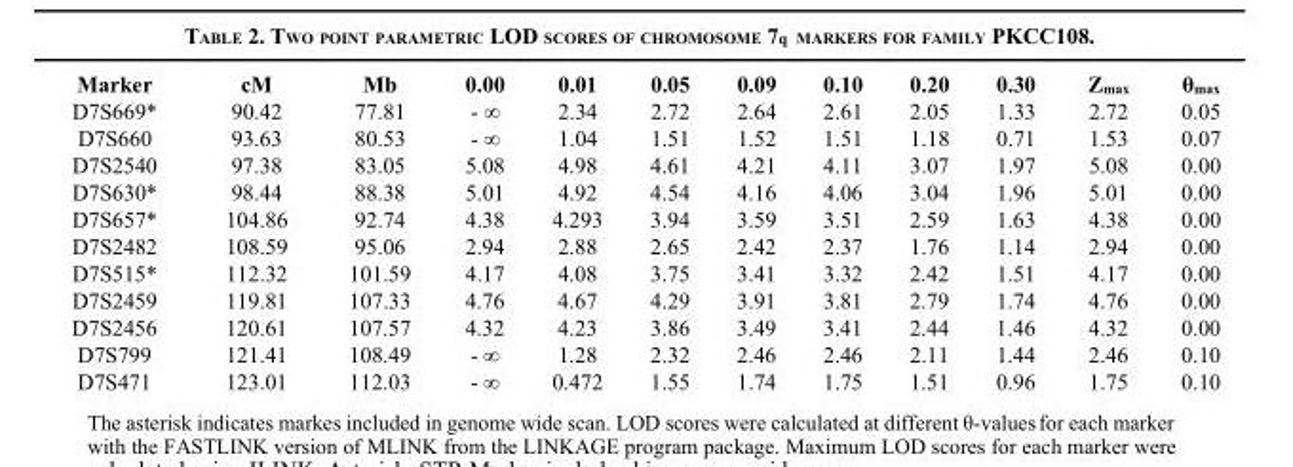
<table><thead><tr><td>Marker</td><td>cM</td><td>Mb</td><td>0.00</td><td>0.01</td><td>0.05</td><td>0.09</td><td>0.10</td><td>0.20</td><td>0.30</td><td>Z<sub>max</sub></td><td>θ<sub>max</sub></td></tr></thead><tbody><tr><td>D7S669*</td><td>90.42</td><td>77.81</td><td>- ∞</td><td>2.34</td><td>2.72</td><td>2.64</td><td>2.61</td><td>2.05</td><td>1.33</td><td>2.72</td><td>0.05</td></tr><tr><td>D7S660</td><td>93.63</td><td>80.53</td><td>- ∞</td><td>1.04</td><td>1.51</td><td>1.52</td><td>1.51</td><td>1.18</td><td>0.71</td><td>1.53</td><td>0.07</td></tr><tr><td>D7S2540</td><td>97.38</td><td>83.05</td><td>5.08</td><td>4.98</td><td>4.61</td><td>4.21</td><td>4.11</td><td>3.07</td><td>1.97</td><td>5.08</td><td>0.00</td></tr><tr><td>D7S630*</td><td>98.44</td><td>88.38</td><td>5.01</td><td>4.92</td><td>4.54</td><td>4.16</td><td>4.06</td><td>3.04</td><td>1.96</td><td>5.01</td><td>0.00</td></tr><tr><td>D7S657*</td><td>104.86</td><td>92.74</td><td>4.38</td><td>4.293</td><td>3.94</td><td>3.59</td><td>3.51</td><td>2.59</td><td>1.63</td><td>4.38</td><td>0.00</td></tr><tr><td>D7S2482</td><td>108.59</td><td>95.06</td><td>2.94</td><td>2.88</td><td>2.65</td><td>2.42</td><td>2.37</td><td>1.76</td><td>1.14</td><td>2.94</td><td>0.00</td></tr><tr><td>D7S515*</td><td>112.32</td><td>101.59</td><td>4.17</td><td>4.08</td><td>3.75</td><td>3.41</td><td>3.32</td><td>2.42</td><td>1.51</td><td>4.17</td><td>0.00</td></tr><tr><td>D7S2459</td><td>119.81</td><td>107.33</td><td>4.76</td><td>4.67</td><td>4.29</td><td>3.91</td><td>3.81</td><td>2.79</td><td>1.74</td><td>4.76</td><td>0.00</td></tr><tr><td>D7S2456</td><td>120.61</td><td>107.57</td><td>4.32</td><td>4.23</td><td>3.86</td><td>3.49</td><td>3.41</td><td>2.44</td><td>1.46</td><td>4.32</td><td>0.00</td></tr><tr><td>D7S799</td><td>121.41</td><td>108.49</td><td>- ∞</td><td>1.28</td><td>2.32</td><td>2.46</td><td>2.46</td><td>2.11</td><td>1.44</td><td>2.46</td><td>0.10</td></tr><tr><td>D7S471</td><td>123.01</td><td>112.03</td><td>- ∞</td><td>0.472</td><td>1.55</td><td>1.74</td><td>1.75</td><td>1.51</td><td>0.96</td><td>1.75</td><td>0.10</td></tr></tbody></table>